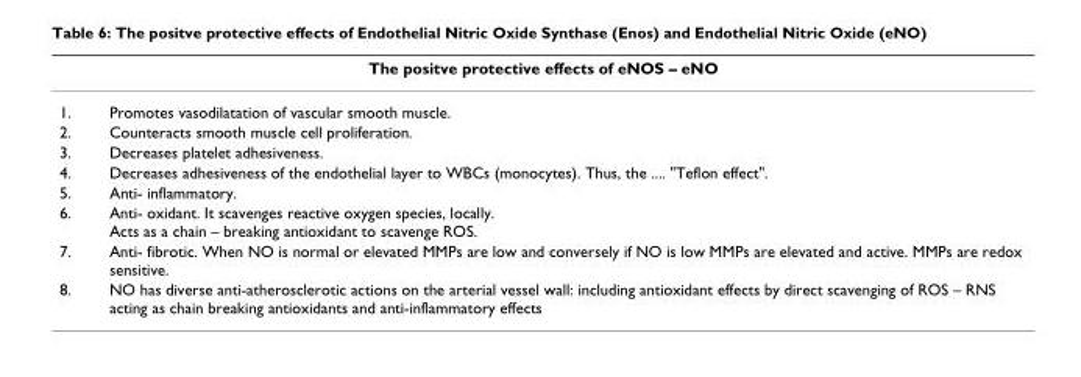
<table><thead><tr><td colspan="2">The positve protective effects of eNOS – eNO</td></tr><tr><td>1.</td><td>Promotes vasodilatation of vascular smooth muscle.</td></tr></thead><tbody><tr><td>2.</td><td>Counteracts smooth muscle cell proliferation.</td></tr><tr><td>3.</td><td>Decreases platelet adhesiveness.</td></tr><tr><td>4.</td><td>Decreases adhesiveness of the endothelial layer to WBCs (monocytes). Thus, the .... &quot;Teflon effect&quot;.</td></tr><tr><td>5.</td><td>Anti- inflammatory.</td></tr><tr><td>6.</td><td>Anti- oxidant. It scavenges reactive oxygen species, locally. Acts as a chain – breaking antioxidant to scavenge ROS.</td></tr><tr><td>7.</td><td>Anti- fibrotic. When NO is normal or elevated MMPs are low and conversely if NO is low MMPs are elevated and active. MMPs are redox sensitive.</td></tr><tr><td>8.</td><td>NO has diverse anti-atherosclerotic actions on the arterial vessel wall: including antioxidant effects by direct scavenging of ROS – RNS acting as chain breaking antioxidants and anti-inflammatory effects</td></tr></tbody></table>